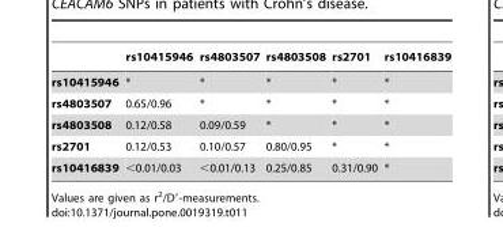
<table><thead><tr><td></td><td>rs10415946</td><td>rs4803507</td><td>rs4803508</td><td>rs2701</td><td>rs10416839</td></tr></thead><tbody><tr><td>rs10415946</td><td>*</td><td>*</td><td>*</td><td>*</td><td>*</td></tr><tr><td>rs4803507</td><td>0.65/0.96</td><td>*</td><td>*</td><td>*</td><td>*</td></tr><tr><td>rs4803508</td><td>0.12/0.58</td><td>0.09/0.59</td><td>*</td><td>*</td><td>*</td></tr><tr><td>rs2701</td><td>0.12/0.53</td><td>0.10/0.57</td><td>0.80/0.95</td><td>*</td><td>*</td></tr><tr><td>rs10416839</td><td>&lt;0.01/0.03</td><td>&lt;0.01/0.13</td><td>0.25/0.85</td><td>0.31/0.90</td><td>*</td></tr></tbody></table>